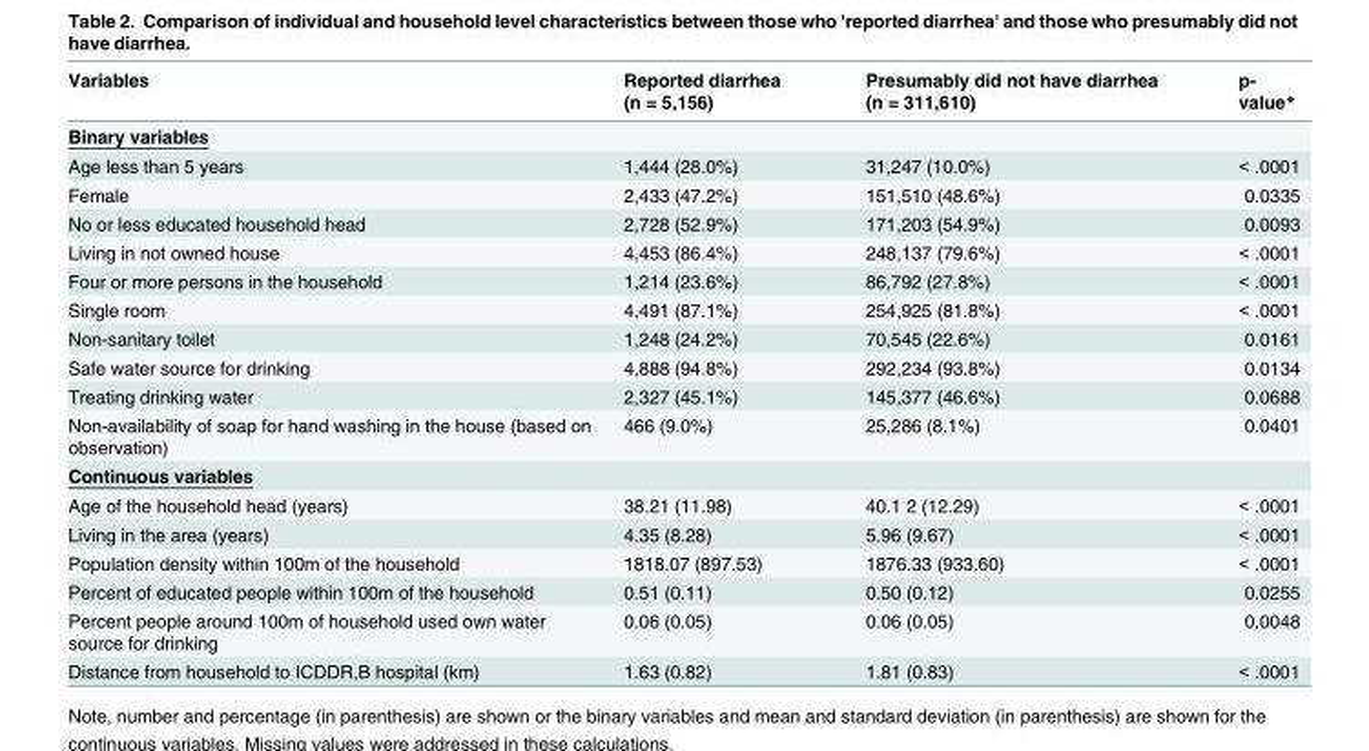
<table><thead><tr><td>Variables</td><td>Reported diarrhea (n = 5,156)</td><td>Presumably did not have diarrhea (n = 311,610)</td><td>p- value*</td></tr></thead><tbody><tr><td colspan="4">Binary variables</td></tr><tr><td>Age less than 5 years</td><td>1,444 (28.0%)</td><td>31,247 (10.0%)</td><td>&lt; .0001</td></tr><tr><td>Female</td><td>2,433 (47.2%)</td><td>151,510 (48.6%)</td><td>0.0335</td></tr><tr><td>No or less educated household head</td><td>2,728 (52.9%)</td><td>171,203 (54.9%)</td><td>0.0093</td></tr><tr><td>Living in not owned house</td><td>4,453 (86.4%)</td><td>248,137 (79.6%)</td><td>&lt; .0001</td></tr><tr><td>Four or more persons in the household</td><td>1,214 (23.6%)</td><td>86,792 (27.8%)</td><td>&lt; .0001</td></tr><tr><td>Single room</td><td>4,491 (87.1%)</td><td>254,925 (81.8%)</td><td>&lt; .0001</td></tr><tr><td>Non-sanitary toilet</td><td>1,248 (24.2%)</td><td>70,545 (22.6%)</td><td>0.0161</td></tr><tr><td>Safe water source for drinking</td><td>4,888 (94.8%)</td><td>292,234 (93.8%)</td><td>0.0134</td></tr><tr><td>Treating drinking water</td><td>2,327 (45.1%)</td><td>145,377 (46.6%)</td><td>0.0688</td></tr><tr><td>Non-availability of soap for hand washing in the house (based on observation)</td><td>466 (9.0%)</td><td>25,286 (8.1%)</td><td>0.0401</td></tr><tr><td colspan="4">Continuous variables</td></tr><tr><td>Age of the household head (years)</td><td>38.21 (11.98)</td><td>40.1 2 (12.29)</td><td>&lt; .0001</td></tr><tr><td>Living in the area (years)</td><td>4.35 (8.28)</td><td>5.96 (9.67)</td><td>&lt; .0001</td></tr><tr><td>Population density within 100m of the household</td><td>1818.07 (897.53)</td><td>1876.33 (933.60)</td><td>&lt; .0001</td></tr><tr><td>Percent of educated people within 100m of the household</td><td>0.51 (0.11)</td><td>0.50 (0.12)</td><td>0.0255</td></tr><tr><td>Percent people around 100m of household used own water source for drinking</td><td>0.06 (0.05)</td><td>0.06 (0.05)</td><td>0.0048</td></tr><tr><td>Distance from household to ICDDR,B hospital (km)</td><td>1.63 (0.82)</td><td>1.81 (0.83)</td><td>&lt; .0001</td></tr></tbody></table>